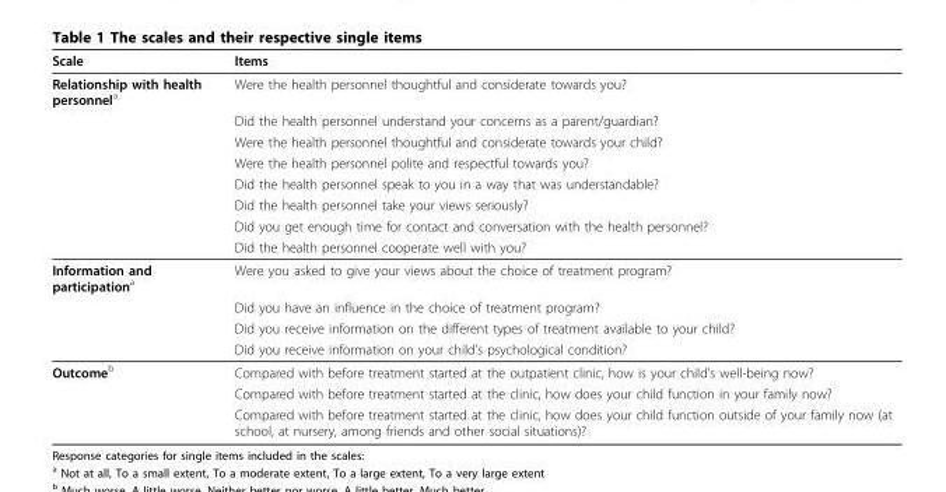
<table><thead><tr><td>Scale</td><td>Items</td></tr></thead><tbody><tr><td rowspan="8">Relationship with health personnel<sup>a</sup></td><td>Were the health personnel thoughtful and considerate towards you?</td></tr><tr><td>Did the health personnel understand your concerns as a parent/guardian?</td></tr><tr><td>Were the health personnel thoughtful and considerate towards your child?</td></tr><tr><td>Were the health personnel polite and respectful towards you?</td></tr><tr><td>Did the health personnel speak to you in a way that was understandable?</td></tr><tr><td>Did the health personnel take your views seriously?</td></tr><tr><td>Did you get enough time for contact and conversation with the health personnel?</td></tr><tr><td>Did the health personnel cooperate well with you?</td></tr><tr><td rowspan="4">Information and participation<sup>a</sup></td><td>Were you asked to give your views about the choice of treatment program?</td></tr><tr><td>Did you have an influence in the choice of treatment program?</td></tr><tr><td>Did you receive information on the different types of treatment available to your child?</td></tr><tr><td>Did you receive information on your child’s psychological condition?</td></tr><tr><td rowspan="3">Outcome<sup>b</sup></td><td>Compared with before treatment started at the outpatient clinic, how is your child’s well-being now?</td></tr><tr><td>Compared with before treatment started at the clinic, how does your child function in your family now?</td></tr><tr><td>Compared with before treatment started at the clinic, how does your child function outside of your family now (at school, at nursery, among friends and other social situations)?</td></tr></tbody></table>